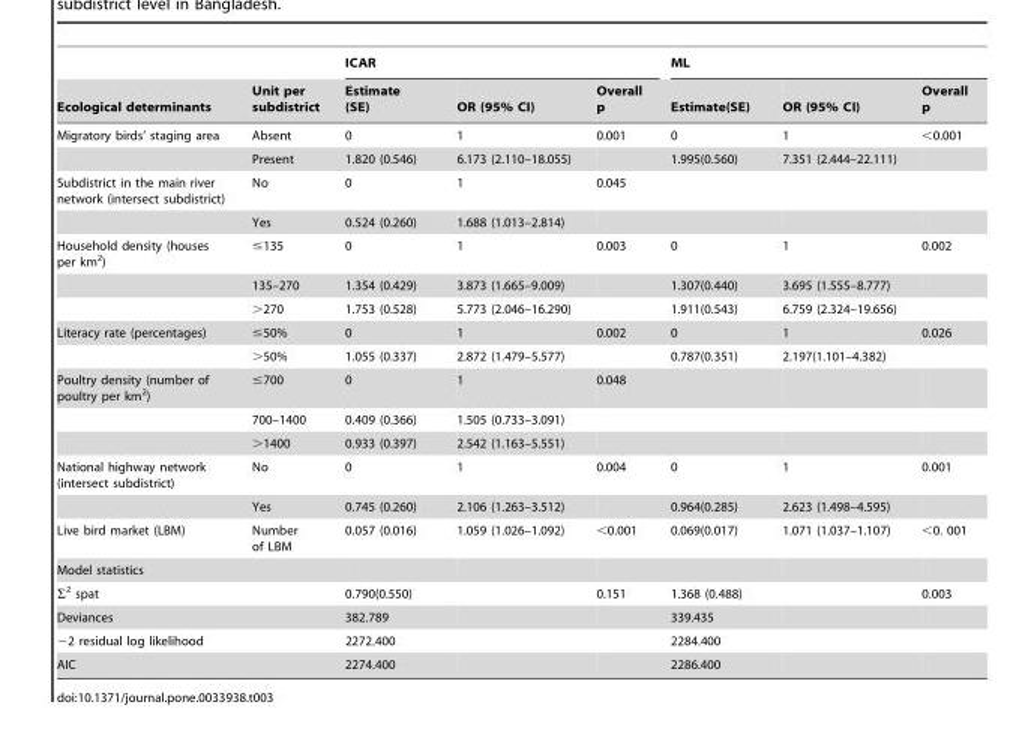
<table><thead><tr><td rowspan="2">Ecological determinants</td><td rowspan="2">Unit per subdistrict</td><td colspan="3">ICAR</td><td colspan="3">ML</td></tr><tr><td>Estimate (SE)</td><td>OR (95% CI)</td><td>Overall p</td><td>Estimate(SE)</td><td>OR (95% CI)</td><td>Overall p</td></tr></thead><tbody><tr><td rowspan="2">Migratory birds’ staging area</td><td>Absent</td><td>0</td><td>1</td><td>0.001</td><td>0</td><td>1</td><td>&lt;0.001</td></tr><tr><td>Present</td><td>1.820 (0.546)</td><td>6.173 (2.110–18.055)</td><td></td><td>1.995(0.560)</td><td>7.351 (2.444–22.111)</td><td></td></tr><tr><td rowspan="2">Subdistrict in the main river network (intersect subdistrict)</td><td>No</td><td>0</td><td>1</td><td>0.045</td><td></td><td></td><td></td></tr><tr><td>Yes</td><td>0.524 (0.260)</td><td>1.688 (1.013–2.814)</td><td></td><td></td><td></td><td></td></tr><tr><td rowspan="3">Household density (houses per km<sup>2</sup>)</td><td>≤135</td><td>0</td><td>1</td><td>0.003</td><td>0</td><td>1</td><td>0.002</td></tr><tr><td>135–270</td><td>1.354 (0.429)</td><td>3.873 (1.665–9.009)</td><td></td><td>1.307(0.440)</td><td>3.695 (1.555–8.777)</td><td></td></tr><tr><td>&gt;270</td><td>1.753 (0.528)</td><td>5.773 (2.046–16.290)</td><td></td><td>1.911(0.543)</td><td>6.759 (2.324–19.656)</td><td></td></tr><tr><td rowspan="2">Literacy rate (percentages)</td><td>≤50%</td><td>0</td><td>1</td><td>0.002</td><td>0</td><td>1</td><td>0.026</td></tr><tr><td>&gt;50%</td><td>1.055 (0.337)</td><td>2.872 (1.479–5.577)</td><td></td><td>0.787(0.351)</td><td>2.197(1.101–4.382)</td><td></td></tr><tr><td rowspan="3">Poultry density (number of poultry per km<sup>2</sup>)</td><td>≤700</td><td>0</td><td>1</td><td>0.048</td><td></td><td></td><td></td></tr><tr><td>700–1400</td><td>0.409 (0.366)</td><td>1.505 (0.733–3.091)</td><td></td><td></td><td></td><td></td></tr><tr><td>&gt;1400</td><td>0.933 (0.397)</td><td>2.542 (1.163–5.551)</td><td></td><td></td><td></td><td></td></tr><tr><td rowspan="2">National highway network (intersect subdistrict)</td><td>No</td><td>0</td><td>1</td><td>0.004</td><td>0</td><td>1</td><td>0.001</td></tr><tr><td>Yes</td><td>0.745 (0.260)</td><td>2.106 (1.263–3.512)</td><td></td><td>0.964(0.285)</td><td>2.623 (1.498–4.595)</td><td></td></tr><tr><td>Live bird market (LBM)</td><td>Number of LBM</td><td>0.057 (0.016)</td><td>1.059 (1.026–1.092)</td><td>&lt;0.001</td><td>0.069(0.017)</td><td>1.071 (1.037–1.107)</td><td>&lt;0. 001</td></tr><tr><td colspan="8">Model statistics</td></tr><tr><td>Σ<sup>2</sup> spat</td><td></td><td>0.790(0.550)</td><td></td><td>0.151</td><td>1.368 (0.488)</td><td></td><td>0.003</td></tr><tr><td>Deviances</td><td></td><td>382.789</td><td></td><td></td><td>339.435</td><td></td><td></td></tr><tr><td>−2 residual log likelihood</td><td></td><td>2272.400</td><td></td><td></td><td>2284.400</td><td></td><td></td></tr><tr><td>AIC</td><td></td><td>2274.400</td><td></td><td></td><td>2286.400</td><td></td><td></td></tr></tbody></table>